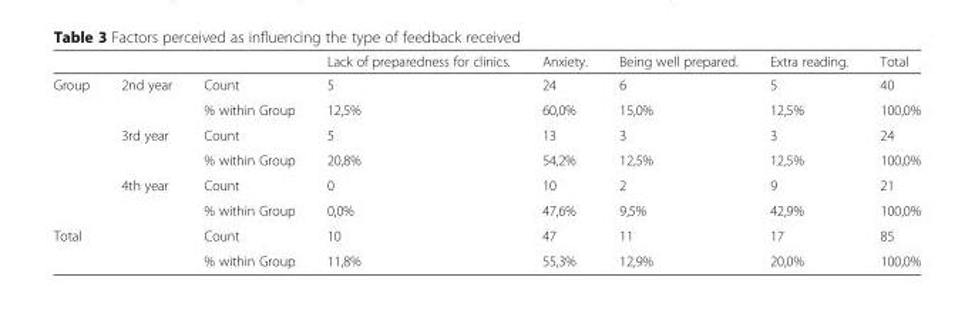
<table><thead><tr><td></td><td></td><td></td><td>Lack of preparedness for clinics.</td><td>Anxiety.</td><td>Being well prepared.</td><td>Extra reading.</td><td>Total</td></tr></thead><tbody><tr><td rowspan="6">Group</td><td rowspan="2">2nd year</td><td>Count</td><td>5</td><td>24</td><td>6</td><td>5</td><td>40</td></tr><tr><td>% within Group</td><td>12,5%</td><td>60,0%</td><td>15,0%</td><td>12,5%</td><td>100,0%</td></tr><tr><td rowspan="2">3rd year</td><td>Count</td><td>5</td><td>13</td><td>3</td><td>3</td><td>24</td></tr><tr><td>% within Group</td><td>20,8%</td><td>54,2%</td><td>12,5%</td><td>12,5%</td><td>100,0%</td></tr><tr><td rowspan="2">4th year</td><td>Count</td><td>0</td><td>10</td><td>2</td><td>9</td><td>21</td></tr><tr><td>% within Group</td><td>0,0%</td><td>47,6%</td><td>9,5%</td><td>42,9%</td><td>100,0%</td></tr><tr><td rowspan="2" colspan="2">Total</td><td>Count</td><td>10</td><td>47</td><td>11</td><td>17</td><td>85</td></tr><tr><td>% within Group</td><td>11,8%</td><td>55,3%</td><td>12,9%</td><td>20,0%</td><td>100,0%</td></tr></tbody></table>